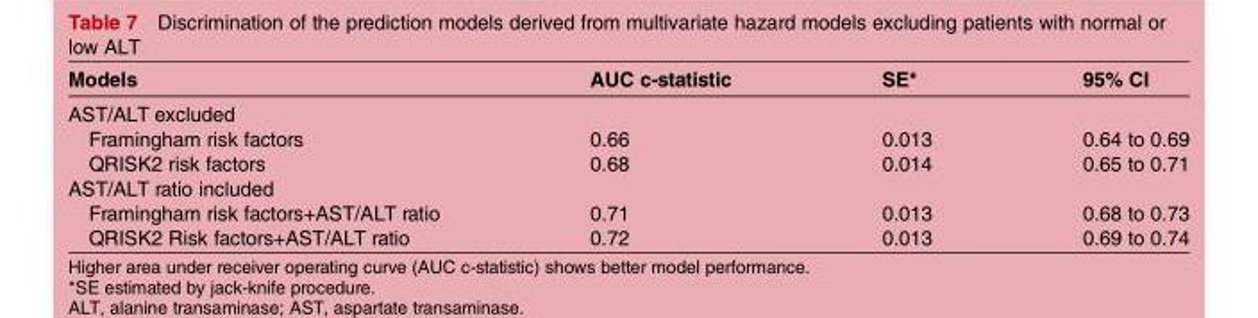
<table><thead><tr><td>Models</td><td>AUC c-statistic</td><td>SE*</td><td>95% CI</td></tr></thead><tbody><tr><td colspan="4">AST/ALT excluded</td></tr><tr><td>Framingham risk factors</td><td>0.66</td><td>0.013</td><td>0.64 to 0.69</td></tr><tr><td>QRISK2 risk factors</td><td>0.68</td><td>0.014</td><td>0.65 to 0.71</td></tr><tr><td colspan="4">AST/ALT ratio included</td></tr><tr><td>Framingham risk factors+AST/ALT ratio</td><td>0.71</td><td>0.013</td><td>0.68 to 0.73</td></tr><tr><td>QRISK2 Risk factors+AST/ALT ratio</td><td>0.72</td><td>0.013</td><td>0.69 to 0.74</td></tr></tbody></table>